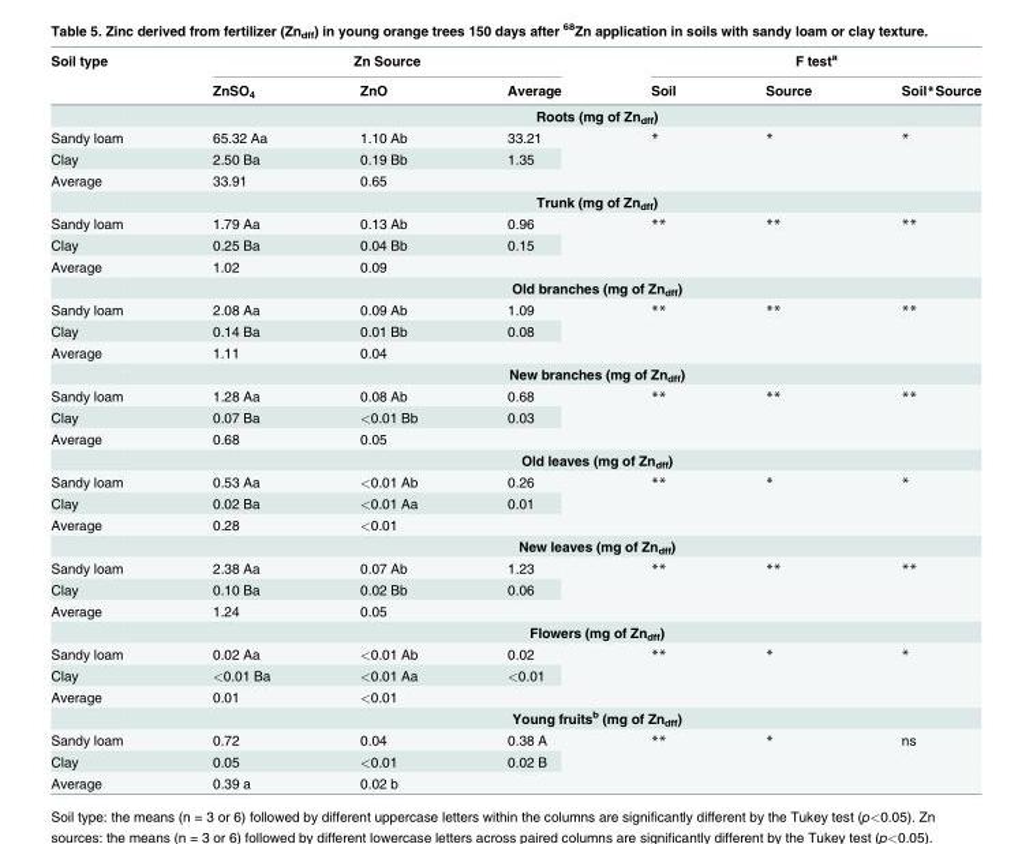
<table><thead><tr><td rowspan="2">Soil type</td><td colspan="3">Zn Source</td><td colspan="3">F test<sup>a</sup></td></tr><tr><td>ZnSO<sub>4</sub></td><td>ZnO</td><td>Average</td><td>Soil</td><td>Source</td><td>Soil*Source</td></tr></thead><tbody><tr><td></td><td colspan="6">Roots (mg of Zn<sub>dff</sub>)</td></tr><tr><td>Sandy loam</td><td>65.32 Aa</td><td>1.10 Ab</td><td>33.21</td><td rowspan="2">*</td><td rowspan="2">*</td><td rowspan="2">*</td></tr><tr><td>Clay</td><td>2.50 Ba</td><td>0.19 Bb</td><td>1.35</td></tr><tr><td rowspan="2">Average</td><td>33.91</td><td>0.65</td><td></td><td></td><td></td><td></td></tr><tr><td colspan="6">Trunk (mg of Zn<sub>dff</sub>)</td></tr><tr><td>Sandy loam</td><td>1.79 Aa</td><td>0.13 Ab</td><td>0.96</td><td rowspan="2">**</td><td rowspan="2">**</td><td rowspan="2">**</td></tr><tr><td>Clay</td><td>0.25 Ba</td><td>0.04 Bb</td><td>0.15</td></tr><tr><td rowspan="2">Average</td><td>1.02</td><td>0.09</td><td></td><td></td><td></td><td></td></tr><tr><td colspan="6">Old branches (mg of Zn<sub>dff</sub>)</td></tr><tr><td>Sandy loam</td><td>2.08 Aa</td><td>0.09 Ab</td><td>1.09</td><td rowspan="2">**</td><td rowspan="2">**</td><td rowspan="2">**</td></tr><tr><td>Clay</td><td>0.14 Ba</td><td>0.01 Bb</td><td>0.08</td></tr><tr><td rowspan="2">Average</td><td>1.11</td><td>0.04</td><td></td><td></td><td></td><td></td></tr><tr><td colspan="6">New branches (mg of Zn<sub>dff</sub>)</td></tr><tr><td>Sandy loam</td><td>1.28 Aa</td><td>0.08 Ab</td><td>0.68</td><td rowspan="2">**</td><td rowspan="2">**</td><td rowspan="2">**</td></tr><tr><td>Clay</td><td>0.07 Ba</td><td>&lt;0.01 Bb</td><td>0.03</td></tr><tr><td rowspan="2">Average</td><td>0.68</td><td>0.05</td><td></td><td></td><td></td><td></td></tr><tr><td colspan="6">Old leaves (mg of Zn<sub>dff</sub>)</td></tr><tr><td>Sandy loam</td><td>0.53 Aa</td><td>&lt;0.01 Ab</td><td>0.26</td><td rowspan="2">**</td><td rowspan="2">*</td><td rowspan="2">*</td></tr><tr><td>Clay</td><td>0.02 Ba</td><td>&lt;0.01 Aa</td><td>0.01</td></tr><tr><td rowspan="2">Average</td><td>0.28</td><td>&lt;0.01</td><td></td><td></td><td></td><td></td></tr><tr><td colspan="6">New leaves (mg of Zn<sub>dff</sub>)</td></tr><tr><td>Sandy loam</td><td>2.38 Aa</td><td>0.07 Ab</td><td>1.23</td><td rowspan="2">**</td><td rowspan="2">**</td><td rowspan="2">**</td></tr><tr><td>Clay</td><td>0.10 Ba</td><td>0.02 Bb</td><td>0.06</td></tr><tr><td rowspan="2">Average</td><td>1.24</td><td>0.05</td><td></td><td></td><td></td><td></td></tr><tr><td colspan="6">Flowers (mg of Zn<sub>dff</sub>)</td></tr><tr><td>Sandy loam</td><td>0.02 Aa</td><td>&lt;0.01 Ab</td><td>0.02</td><td rowspan="2">**</td><td rowspan="2">*</td><td rowspan="2">*</td></tr><tr><td>Clay</td><td>&lt;0.01 Ba</td><td>&lt;0.01 Aa</td><td>&lt;0.01</td></tr><tr><td rowspan="2">Average</td><td>0.01</td><td>&lt;0.01</td><td></td><td></td><td></td><td></td></tr><tr><td colspan="6">Young fruits<sup>b</sup> (mg of Zn<sub>dff</sub>)</td></tr><tr><td>Sandy loam</td><td>0.72</td><td>0.04</td><td>0.38 A</td><td rowspan="2">**</td><td rowspan="2">*</td><td rowspan="2">ns</td></tr><tr><td>Clay</td><td>0.05</td><td>&lt;0.01</td><td>0.02 B</td></tr><tr><td>Average</td><td>0.39 a</td><td>0.02 b</td><td></td><td></td><td></td><td></td></tr></tbody></table>